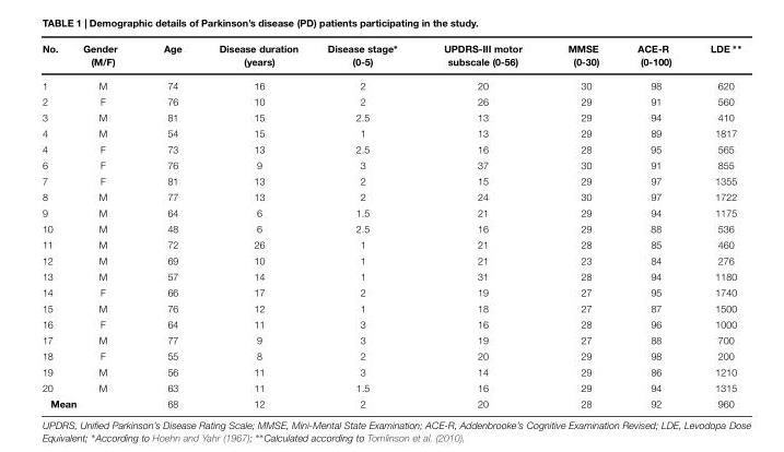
<table><thead><tr><td>No.</td><td>Gender (M/F)</td><td>Age</td><td>Disease duration (years)</td><td>Disease stage∗ (0-5)</td><td>UPDRS-III motor subscale (0-56)</td><td>MMSE (0-30)</td><td>ACE-R (0-100)</td><td>LDE ∗∗</td></tr></thead><tbody><tr><td>1</td><td>M</td><td>74</td><td>16</td><td>2</td><td>20</td><td>30</td><td>98</td><td>620</td></tr><tr><td>2</td><td>F</td><td>76</td><td>10</td><td>2</td><td>26</td><td>29</td><td>91</td><td>560</td></tr><tr><td>3</td><td>M</td><td>81</td><td>15</td><td>2.5</td><td>13</td><td>29</td><td>94</td><td>410</td></tr><tr><td>4</td><td>M</td><td>54</td><td>15</td><td>1</td><td>13</td><td>29</td><td>89</td><td>1817</td></tr><tr><td>4</td><td>F</td><td>73</td><td>13</td><td>2.5</td><td>16</td><td>28</td><td>95</td><td>565</td></tr><tr><td>6</td><td>F</td><td>76</td><td>9</td><td>3</td><td>37</td><td>30</td><td>91</td><td>855</td></tr><tr><td>7</td><td>F</td><td>81</td><td>13</td><td>2</td><td>15</td><td>29</td><td>97</td><td>1355</td></tr><tr><td>8</td><td>M</td><td>77</td><td>13</td><td>2</td><td>24</td><td>30</td><td>97</td><td>1722</td></tr><tr><td>9</td><td>M</td><td>64</td><td>6</td><td>1.5</td><td>21</td><td>29</td><td>94</td><td>1175</td></tr><tr><td>10</td><td>M</td><td>48</td><td>6</td><td>2.5</td><td>16</td><td>29</td><td>88</td><td>536</td></tr><tr><td>11</td><td>M</td><td>72</td><td>26</td><td>1</td><td>21</td><td>28</td><td>85</td><td>460</td></tr><tr><td>12</td><td>M</td><td>69</td><td>10</td><td>1</td><td>21</td><td>23</td><td>84</td><td>276</td></tr><tr><td>13</td><td>M</td><td>57</td><td>14</td><td>1</td><td>31</td><td>28</td><td>94</td><td>1180</td></tr><tr><td>14</td><td>F</td><td>66</td><td>17</td><td>2</td><td>19</td><td>27</td><td>95</td><td>1740</td></tr><tr><td>15</td><td>M</td><td>76</td><td>12</td><td>1</td><td>18</td><td>27</td><td>87</td><td>1500</td></tr><tr><td>16</td><td>F</td><td>64</td><td>11</td><td>3</td><td>16</td><td>28</td><td>96</td><td>1000</td></tr><tr><td>17</td><td>M</td><td>77</td><td>9</td><td>3</td><td>19</td><td>27</td><td>88</td><td>700</td></tr><tr><td>18</td><td>F</td><td>55</td><td>8</td><td>2</td><td>20</td><td>29</td><td>98</td><td>200</td></tr><tr><td>19</td><td>M</td><td>56</td><td>11</td><td>3</td><td>14</td><td>29</td><td>86</td><td>1210</td></tr><tr><td>20</td><td>M</td><td>63</td><td>11</td><td>1.5</td><td>16</td><td>29</td><td>94</td><td>1315</td></tr><tr><td colspan="2">Mean</td><td>68</td><td>12</td><td>2</td><td>20</td><td>28</td><td>92</td><td>960</td></tr></tbody></table>